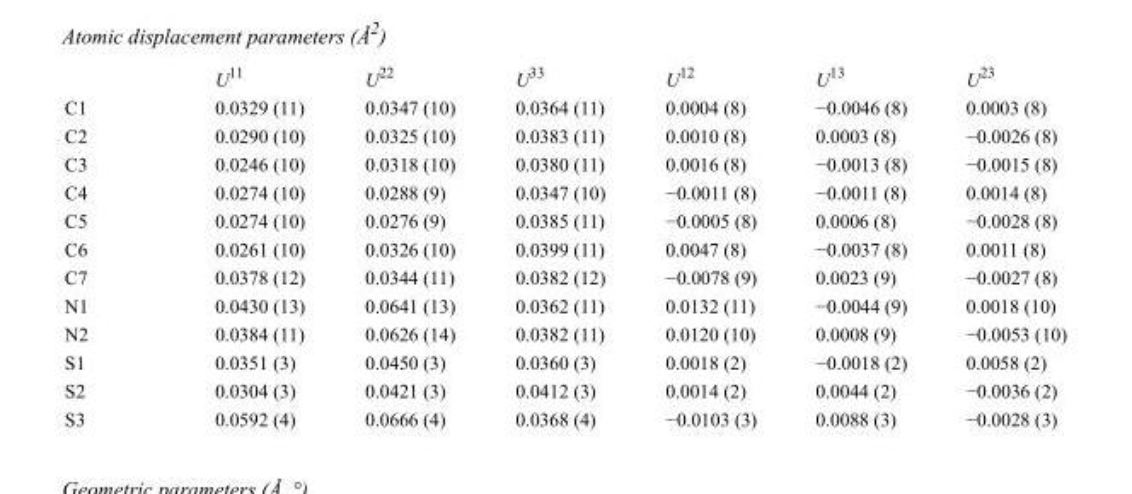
<table><thead><tr><td></td><td>U<sup>11</sup></td><td>U<sup>22</sup></td><td>U<sup>33</sup></td><td>U<sup>12</sup></td><td>U<sup>13</sup></td><td>U<sup>23</sup></td></tr></thead><tbody><tr><td>C1</td><td>0.0329 (11)</td><td>0.0347 (10)</td><td>0.0364 (11)</td><td>0.0004 (8)</td><td>−0.0046 (8)</td><td>0.0003 (8)</td></tr><tr><td>C2</td><td>0.0290 (10)</td><td>0.0325 (10)</td><td>0.0383 (11)</td><td>0.0010 (8)</td><td>0.0003 (8)</td><td>−0.0026 (8)</td></tr><tr><td>C3</td><td>0.0246 (10)</td><td>0.0318 (10)</td><td>0.0380 (11)</td><td>0.0016 (8)</td><td>−0.0013 (8)</td><td>−0.0015 (8)</td></tr><tr><td>C4</td><td>0.0274 (10)</td><td>0.0288 (9)</td><td>0.0347 (10)</td><td>−0.0011 (8)</td><td>−0.0011 (8)</td><td>0.0014 (8)</td></tr><tr><td>C5</td><td>0.0274 (10)</td><td>0.0276 (9)</td><td>0.0385 (11)</td><td>−0.0005 (8)</td><td>0.0006 (8)</td><td>−0.0028 (8)</td></tr><tr><td>C6</td><td>0.0261 (10)</td><td>0.0326 (10)</td><td>0.0399 (11)</td><td>0.0047 (8)</td><td>−0.0037 (8)</td><td>0.0011 (8)</td></tr><tr><td>C7</td><td>0.0378 (12)</td><td>0.0344 (11)</td><td>0.0382 (12)</td><td>−0.0078 (9)</td><td>0.0023 (9)</td><td>−0.0027 (8)</td></tr><tr><td>N1</td><td>0.0430 (13)</td><td>0.0641 (13)</td><td>0.0362 (11)</td><td>0.0132 (11)</td><td>−0.0044 (9)</td><td>0.0018 (10)</td></tr><tr><td>N2</td><td>0.0384 (11)</td><td>0.0626 (14)</td><td>0.0382 (11)</td><td>0.0120 (10)</td><td>0.0008 (9)</td><td>−0.0053 (10)</td></tr><tr><td>S1</td><td>0.0351 (3)</td><td>0.0450 (3)</td><td>0.0360 (3)</td><td>0.0018 (2)</td><td>−0.0018 (2)</td><td>0.0058 (2)</td></tr><tr><td>S2</td><td>0.0304 (3)</td><td>0.0421 (3)</td><td>0.0412 (3)</td><td>0.0014 (2)</td><td>0.0044 (2)</td><td>−0.0036 (2)</td></tr><tr><td>S3</td><td>0.0592 (4)</td><td>0.0666 (4)</td><td>0.0368 (4)</td><td>−0.0103 (3)</td><td>0.0088 (3)</td><td>−0.0028 (3)</td></tr></tbody></table>